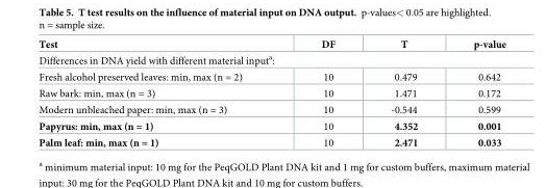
<table><thead><tr><td>Test</td><td>DF</td><td>T</td><td>p-value</td></tr></thead><tbody><tr><td colspan="4">Differences in DNA yield with different material input<sup>a</sup>:</td></tr><tr><td>Fresh alcohol preserved leaves: min, max (n = 2)</td><td>10</td><td>0.479</td><td>0.642</td></tr><tr><td>Raw bark: min, max (n = 3)</td><td>10</td><td>1.471</td><td>0.172</td></tr><tr><td>Modern unbleached paper: min, max (n = 3)</td><td>10</td><td>-0.544</td><td>0.599</td></tr><tr><td>Papyrus: min, max (n = 1)</td><td>10</td><td>4.352</td><td>0.001</td></tr><tr><td>Palm leaf: min, max (n = 1)</td><td>10</td><td>2.471</td><td>0.033</td></tr></tbody></table>